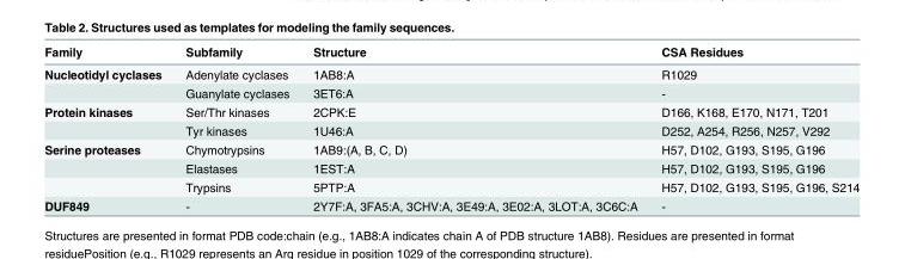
<table><thead><tr><td>Family</td><td>Subfamily</td><td>Structure</td><td>CSA Residues</td></tr></thead><tbody><tr><td rowspan="2">Nucleotidyl cyclases</td><td>Adenylate cyclases</td><td>1AB8:A</td><td>R1029</td></tr><tr><td>Guanylate cyclases</td><td>3ET6:A</td><td>-</td></tr><tr><td rowspan="2">Protein kinases</td><td>Ser/Thr kinases</td><td>2CPK:E</td><td>D166, K168, E170, N171, T201</td></tr><tr><td>Tyr kinases</td><td>1U46:A</td><td>D252, A254, R256, N257, V292</td></tr><tr><td rowspan="3">Serine proteases</td><td>Chymotrypsins</td><td>1AB9:(A, B, C, D)</td><td>H57, D102, G193, S195, G196</td></tr><tr><td>Elastases</td><td>1EST:A</td><td>H57, D102, G193, S195, G196</td></tr><tr><td>Trypsins</td><td>5PTP:A</td><td>H57, D102, G193, S195, G196, S214</td></tr><tr><td>DUF849</td><td>-</td><td>2Y7F:A, 3FA5:A, 3CHV:A, 3E49:A, 3E02:A, 3LOT:A, 3C6C:A</td><td>-</td></tr></tbody></table>